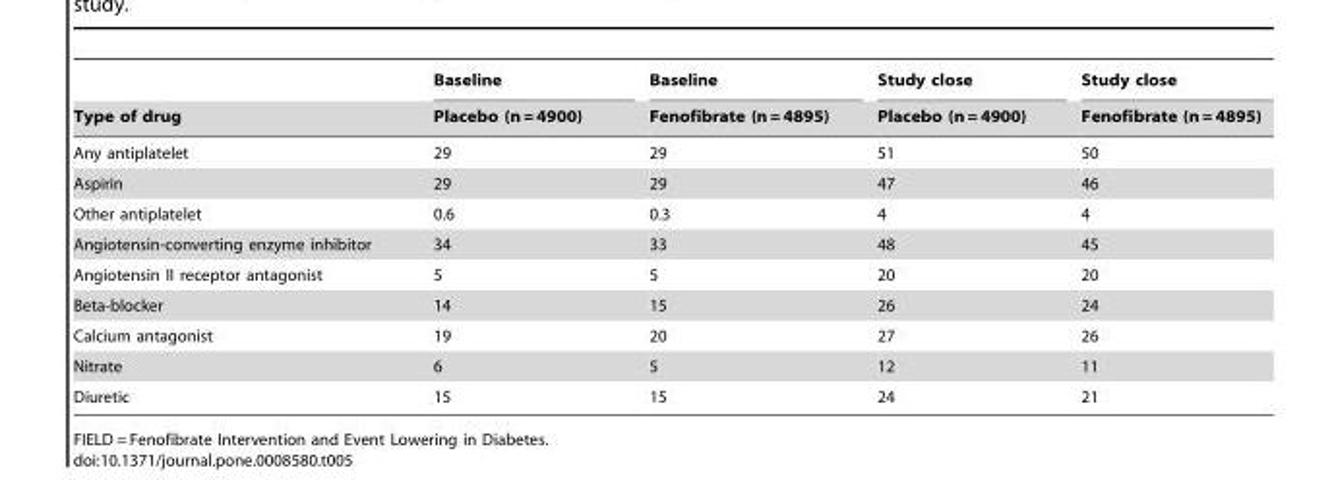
<table><thead><tr><td rowspan="2">Type of drug</td><td rowspan="2">Baseline Placebo (n = 4900)</td><td rowspan="2">Baseline Fenofibrate (n = 4895)</td><td rowspan="2">Study close Placebo (n = 4900)</td><td rowspan="2">Study close Fenofibrate (n = 4895)</td></tr><tr></tr></thead><tbody><tr><td>Any antiplatelet</td><td>29</td><td>29</td><td>51</td><td>50</td></tr><tr><td>Aspirin</td><td>29</td><td>29</td><td>47</td><td>46</td></tr><tr><td>Other antiplatelet</td><td>0.6</td><td>0.3</td><td>4</td><td>4</td></tr><tr><td>Angiotensin-converting enzyme inhibitor</td><td>34</td><td>33</td><td>48</td><td>45</td></tr><tr><td>Angiotensin II receptor antagonist</td><td>5</td><td>5</td><td>20</td><td>20</td></tr><tr><td>Beta-blocker</td><td>14</td><td>15</td><td>26</td><td>24</td></tr><tr><td>Calcium antagonist</td><td>19</td><td>20</td><td>27</td><td>26</td></tr><tr><td>Nitrate</td><td>6</td><td>5</td><td>12</td><td>11</td></tr><tr><td>Diuretic</td><td>15</td><td>15</td><td>24</td><td>21</td></tr></tbody></table>